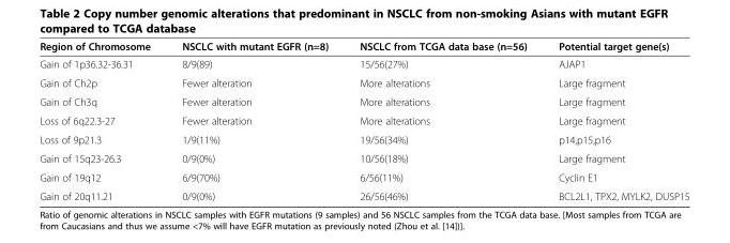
<table><thead><tr><td>Region of Chromosome</td><td>NSCLC with mutant EGFR (n=8)</td><td>NSCLC from TCGA data base (n=56)</td><td>Potential target gene(s)</td></tr></thead><tbody><tr><td>Gain of 1p36.32-36.31</td><td>8/9(89)</td><td>15/56(27%)</td><td>AJAP1</td></tr><tr><td>Gain of Ch2p</td><td>Fewer alteration</td><td>More alterations</td><td>Large fragment</td></tr><tr><td>Gain of Ch3q</td><td>Fewer alteration</td><td>More alterations</td><td>Large fragment</td></tr><tr><td>Loss of 6q22.3-27</td><td>Fewer alteration</td><td>More alterations</td><td>Large fragment</td></tr><tr><td>Loss of 9p21.3</td><td>1/9(11%)</td><td>19/56(34%)</td><td>p14,p15,p16</td></tr><tr><td>Gain of 15q23-26.3</td><td>0/9(0%)</td><td>10/56(18%)</td><td>Large fragment</td></tr><tr><td>Gain of 19q12</td><td>6/9(70%)</td><td>6/56(11%)</td><td>Cyclin E1</td></tr><tr><td>Gain of 20q11.21</td><td>0/9(0%)</td><td>26/56(46%)</td><td>BCL2L1, TPX2, MYLK2, DUSP15</td></tr></tbody></table>